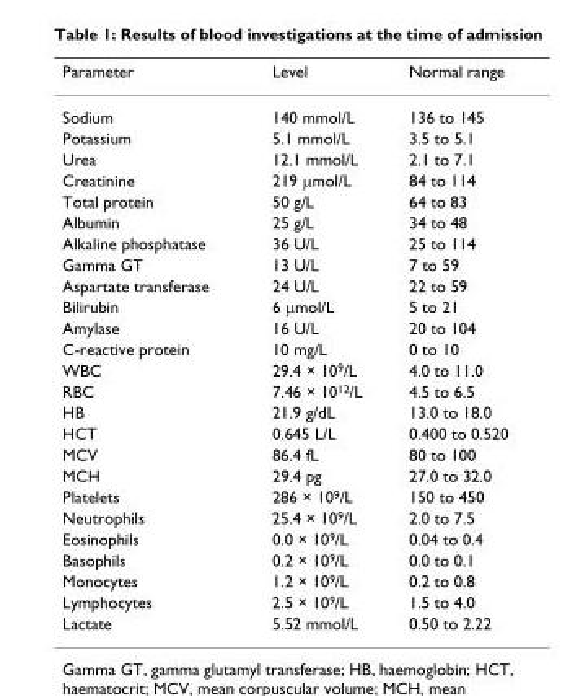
<table><thead><tr><td>Parameter</td><td>Level</td><td>Normal range</td></tr></thead><tbody><tr><td>Sodium</td><td>140 mmol/L</td><td>136 to 145</td></tr><tr><td>Potassium</td><td>5.1 mmol/L</td><td>3.5 to 5.1</td></tr><tr><td>Urea</td><td>12.1 mmol/L</td><td>2.1 to 7.1</td></tr><tr><td>Creatinine</td><td>219 μmol/L</td><td>84 to 114</td></tr><tr><td>Total protein</td><td>50 g/L</td><td>64 to 83</td></tr><tr><td>Albumin</td><td>25 g/L</td><td>34 to 48</td></tr><tr><td>Alkaline phosphatase</td><td>36 U/L</td><td>25 to 114</td></tr><tr><td>Gamma GT</td><td>13 U/L</td><td>7 to 59</td></tr><tr><td>Aspartate transferase</td><td>24 U/L</td><td>22 to 59</td></tr><tr><td>Bilirubin</td><td>6 μmol/L</td><td>5 to 21</td></tr><tr><td>Amylase</td><td>16 U/L</td><td>20 to 104</td></tr><tr><td>C-reactive protein</td><td>10 mg/L</td><td>0 to 10</td></tr><tr><td>WBC</td><td>29.4 × 10<sup>9</sup>/L</td><td>4.0 to 11.0</td></tr><tr><td>RBC</td><td>7.46 × 10<sup>12</sup>/L</td><td>4.5 to 6.5</td></tr><tr><td>HB</td><td>21.9 g/dL</td><td>13.0 to 18.0</td></tr><tr><td>HCT</td><td>0.645 L/L</td><td>0.400 to 0.520</td></tr><tr><td>MCV</td><td>86.4 fL</td><td>80 to 100</td></tr><tr><td>MCH</td><td>29.4 pg</td><td>27.0 to 32.0</td></tr><tr><td>Platelets</td><td>286 × 10<sup>9</sup>/L</td><td>150 to 450</td></tr><tr><td>Neutrophils</td><td>25.4 × 10<sup>9</sup>/L</td><td>2.0 to 7.5</td></tr><tr><td>Eosinophils</td><td>0.0 × 10<sup>9</sup>/L</td><td>0.04 to 0.4</td></tr><tr><td>Basophils</td><td>0.2 × 10<sup>9</sup>/L</td><td>0.0 to 0.1</td></tr><tr><td>Monocytes</td><td>1.2 × 10<sup>9</sup>/L</td><td>0.2 to 0.8</td></tr><tr><td>Lymphocytes</td><td>2.5 × 10<sup>9</sup>/L</td><td>1.5 to 4.0</td></tr><tr><td>Lactate</td><td>5.52 mmol/L</td><td>0.50 to 2.22</td></tr></tbody></table>